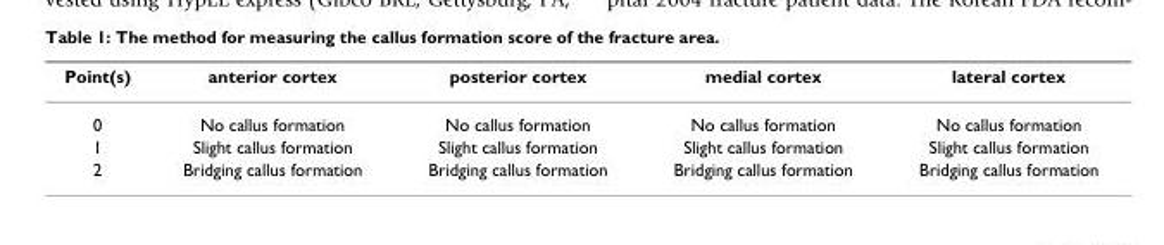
<table><thead><tr><td>Point(s)</td><td>anterior cortex</td><td>posterior cortex</td><td>medial cortex</td><td>lateral cortex</td></tr></thead><tbody><tr><td>0</td><td>No callus formation</td><td>No callus formation</td><td>No callus formation</td><td>No callus formation</td></tr><tr><td>1</td><td>Slight callus formation</td><td>Slight callus formation</td><td>Slight callus formation</td><td>Slight callus formation</td></tr><tr><td>2</td><td>Bridging callus formation</td><td>Bridging callus formation</td><td>Bridging callus formation</td><td>Bridging callus formation</td></tr></tbody></table>